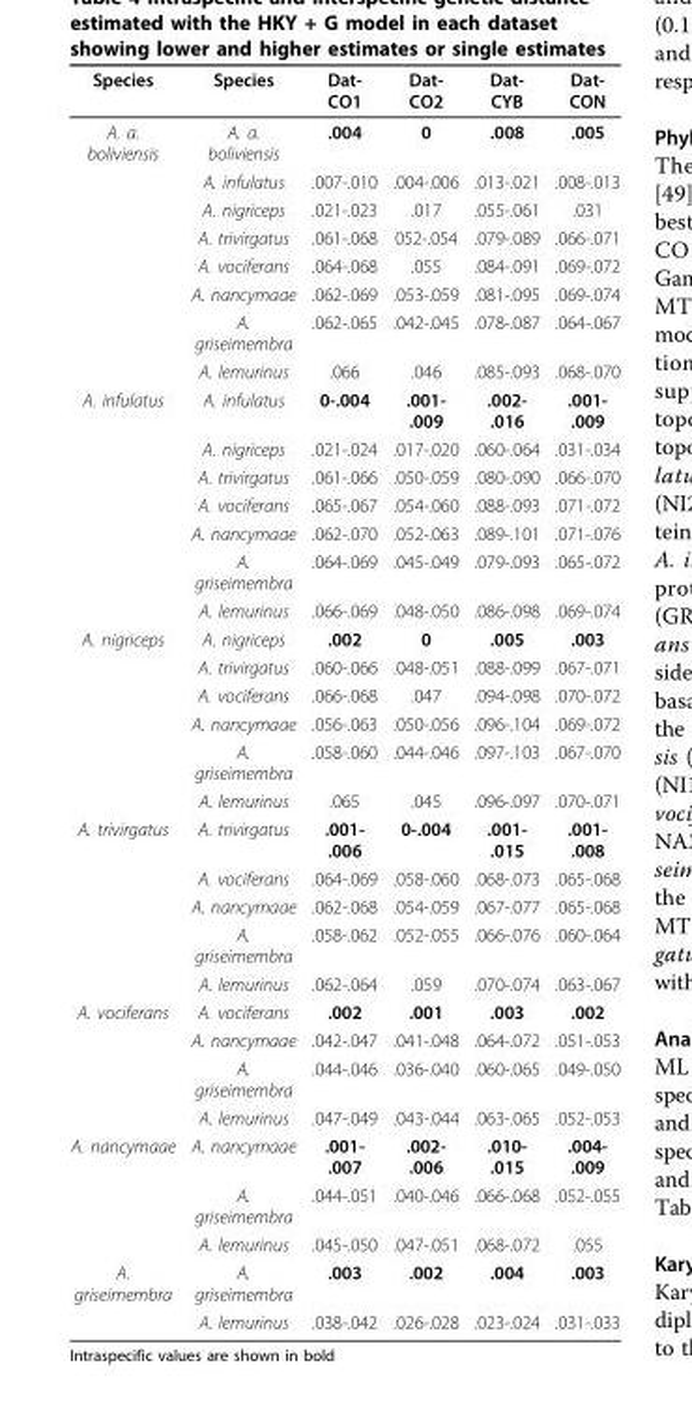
<table><thead><tr><td>Species</td><td>Species</td><td>Dat- CO1</td><td>Dat- CO2</td><td>Dat- CYB</td><td>Dat- CON</td></tr></thead><tbody><tr><td rowspan="8">A. a. boliviensis</td><td>A. a. boliviensis</td><td>.004</td><td>0</td><td>.008</td><td>.005</td></tr><tr><td>A. infulatus</td><td>.007-.010</td><td>.004-.006</td><td>.013-.021</td><td>.008-.013</td></tr><tr><td>A. nigriceps</td><td>.021-.023</td><td>.017</td><td>.055-.061</td><td>.031</td></tr><tr><td>A. trivirgatus</td><td>.061-.068</td><td>052-.054</td><td>.079-.089</td><td>.066-.071</td></tr><tr><td>A. vociferans</td><td>.064-.068</td><td>.055</td><td>.084-.091</td><td>.069-.072</td></tr><tr><td>A. nancymaae</td><td>.062-.069</td><td>.053-.059</td><td>.081-.095</td><td>.069-.074</td></tr><tr><td>A. griseimembra</td><td>.062-.065</td><td>.042-.045</td><td>.078-.087</td><td>.064-.067</td></tr><tr><td>A. lemurinus</td><td>.066</td><td>.046</td><td>.085-.093</td><td>.068-.070</td></tr><tr><td rowspan="7">A. infulatus</td><td>A. infulatus</td><td>0-.004</td><td>.001- .009</td><td>.002- .016</td><td>.001- .009</td></tr><tr><td>A. nigriceps</td><td>.021-.024</td><td>.017-.020</td><td>.060-.064</td><td>.031-.034</td></tr><tr><td>A. trivirgatus</td><td>.061-.066</td><td>.050-.059</td><td>.080-.090</td><td>.066-.070</td></tr><tr><td>A. vociferans</td><td>.065-.067</td><td>.054-.060</td><td>.088-.093</td><td>.071-.072</td></tr><tr><td>A. nancymaae</td><td>.062-.070</td><td>.052-.063</td><td>.089-.101</td><td>.071-.076</td></tr><tr><td>A. griseimembra</td><td>.064-.069</td><td>.045-.049</td><td>.079-.093</td><td>.065-.072</td></tr><tr><td>A. lemurinus</td><td>.066-.069</td><td>.048-.050</td><td>.086-.098</td><td>.069-.074</td></tr><tr><td rowspan="6">A. nigriceps</td><td>A. nigriceps</td><td>.002</td><td>0</td><td>.005</td><td>.003</td></tr><tr><td>A. trivirgatus</td><td>.060-.066</td><td>.048-.051</td><td>.088-.099</td><td>.067-.071</td></tr><tr><td>A. vociferans</td><td>.066-.068</td><td>.047</td><td>.094-.098</td><td>.070-.072</td></tr><tr><td>A. nancymaae</td><td>.056-.063</td><td>.050-.056</td><td>.096-.104</td><td>.069-.072</td></tr><tr><td>A. griseimembra</td><td>.058-.060</td><td>.044-.046</td><td>.097-.103</td><td>.067-.070</td></tr><tr><td>A. lemurinus</td><td>.065</td><td>.045</td><td>.096-.097</td><td>.070-.071</td></tr><tr><td rowspan="5">A. trivirgatus</td><td>A. trivirgatus</td><td>.001- .006</td><td>0-.004</td><td>.001- .015</td><td>.001- .008</td></tr><tr><td>A. vociferans</td><td>.064-.069</td><td>.058-.060</td><td>.068-.073</td><td>.065-.068</td></tr><tr><td>A. nancymaae</td><td>.062-.068</td><td>.054-.059</td><td>.067-.077</td><td>.065-.068</td></tr><tr><td>A. griseimembra</td><td>.058-.062</td><td>.052-.055</td><td>.066-.076</td><td>.060-.064</td></tr><tr><td>A. lemurinus</td><td>.062-.064</td><td>.059</td><td>.070-.074</td><td>.063-.067</td></tr><tr><td rowspan="4">A. vociferans</td><td>A. vociferans</td><td>.002</td><td>.001</td><td>.003</td><td>.002</td></tr><tr><td>A. nancymaae</td><td>.042-.047</td><td>.041-.048</td><td>.064-.072</td><td>.051-.053</td></tr><tr><td>A. griseimembra</td><td>.044-.046</td><td>.036-.040</td><td>.060-.065</td><td>.049-.050</td></tr><tr><td>A. lemurinus</td><td>.047-.049</td><td>.043-.044</td><td>.063-.065</td><td>.052-.053</td></tr><tr><td rowspan="3">A. nancymaae</td><td>A. nancymaae</td><td>.001- .007</td><td>.002- .006</td><td>.010- .015</td><td>.004- .009</td></tr><tr><td>A. griseimembra</td><td>.044-.051</td><td>.040-.046</td><td>.066-.068</td><td>.052-.055</td></tr><tr><td>A. lemurinus</td><td>.045-.050</td><td>.047-.051</td><td>.068-.072</td><td>.055</td></tr><tr><td rowspan="2">A. griseimembra</td><td>A. griseimembra</td><td>.003</td><td>.002</td><td>.004</td><td>.003</td></tr><tr><td>A. lemurinus</td><td>.038-.042</td><td>.026-.028</td><td>.023-.024</td><td>.031-.033</td></tr></tbody></table>